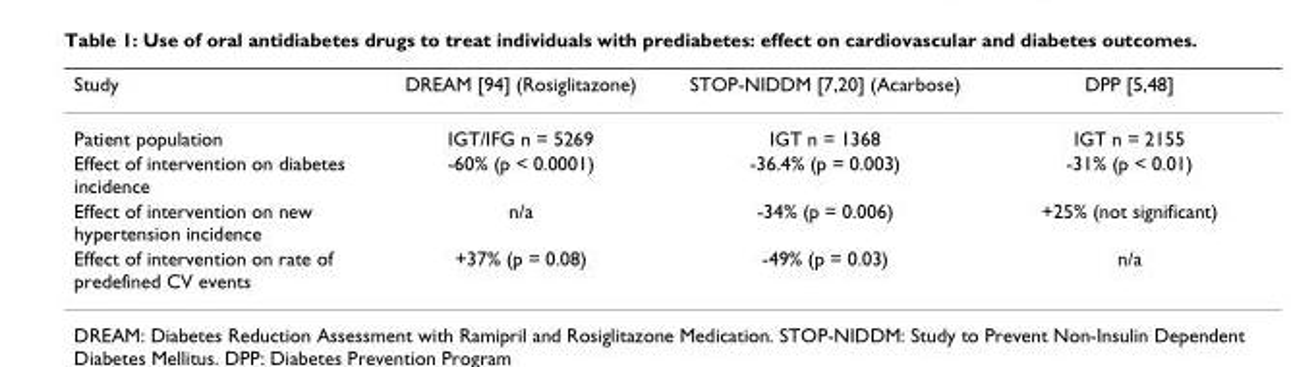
<table><thead><tr><td>Study</td><td>DREAM [94] (Rosiglitazone)</td><td>STOP-NIDDM [7,20] (Acarbose)</td><td>DPP [5,48]</td></tr></thead><tbody><tr><td>Patient population</td><td>IGT/IFG n = 5269</td><td>IGT n = 1368</td><td>IGT n = 2155</td></tr><tr><td>Effect of intervention on diabetes incidence</td><td>-60% (p &lt; 0.0001)</td><td>-36.4% (p = 0.003)</td><td>-31% (p &lt; 0.01)</td></tr><tr><td>Effect of intervention on new hypertension incidence</td><td>n/a</td><td>-34% (p = 0.006)</td><td>+25% (not significant)</td></tr><tr><td>Effect of intervention on rate of predefined CV events</td><td>+37% (p = 0.08)</td><td>-49% (p = 0.03)</td><td>n/a</td></tr></tbody></table>